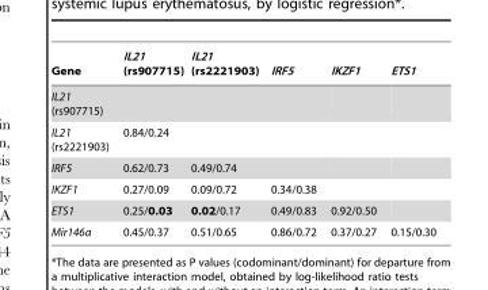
<table><thead><tr><td>Gene</td><td>IL21 (rs907715)</td><td>IL21 (rs2221903)</td><td>IRF5</td><td>IKZF1</td><td>ETS1</td></tr></thead><tbody><tr><td colspan="6">IL21 (rs907715)</td></tr><tr><td>IL21 (rs2221903)</td><td>0.84/0.24</td><td></td><td></td><td></td><td></td></tr><tr><td>IRF5</td><td>0.62/0.73</td><td>0.49/0.74</td><td></td><td></td><td></td></tr><tr><td>IKZF1</td><td>0.27/0.09</td><td>0.09/0.72</td><td>0.34/0.38</td><td></td><td></td></tr><tr><td>ETS1</td><td>0.25/0.03</td><td>0.02/0.17</td><td>0.49/0.83</td><td>0.92/0.50</td><td></td></tr><tr><td>Mir146a</td><td>0.45/0.37</td><td>0.51/0.65</td><td>0.86/0.72</td><td>0.37/0.27</td><td>0.15/0.30</td></tr></tbody></table>